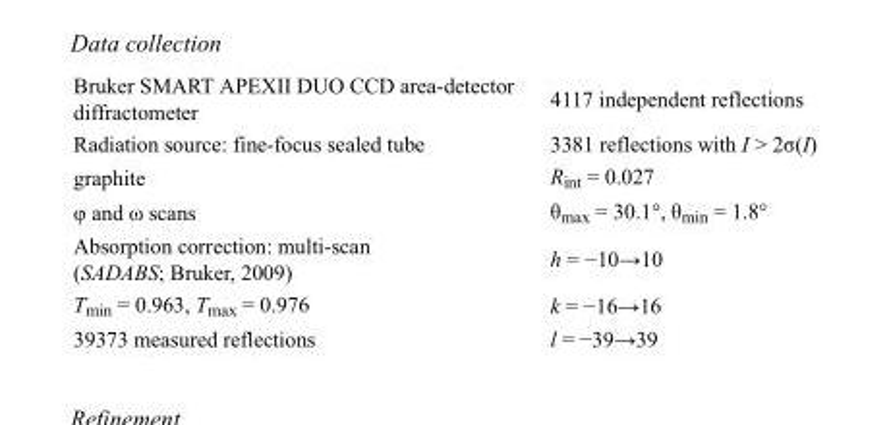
<table><tbody><tr><td>Bruker SMART APEXII DUO CCD area-detector diffractometer</td><td>4117 independent reflections</td></tr><tr><td>Radiation source: fine-focus sealed tube</td><td>3381 reflections with I &gt; 2σ(I)</td></tr><tr><td>graphite</td><td>R<sub>int</sub> = 0.027</td></tr><tr><td>φ and ω scans</td><td>θ<sub>max</sub> = 30.1°, θ<sub>min</sub> = 1.8°</td></tr><tr><td>Absorption correction: multi-scan (SADABS; Bruker, 2009)</td><td>h = −10→10</td></tr><tr><td>T<sub>min</sub> = 0.963, T<sub>max</sub> = 0.976</td><td>k = −16→16</td></tr><tr><td>39373 measured reflections</td><td>l = −39→39</td></tr></tbody></table>